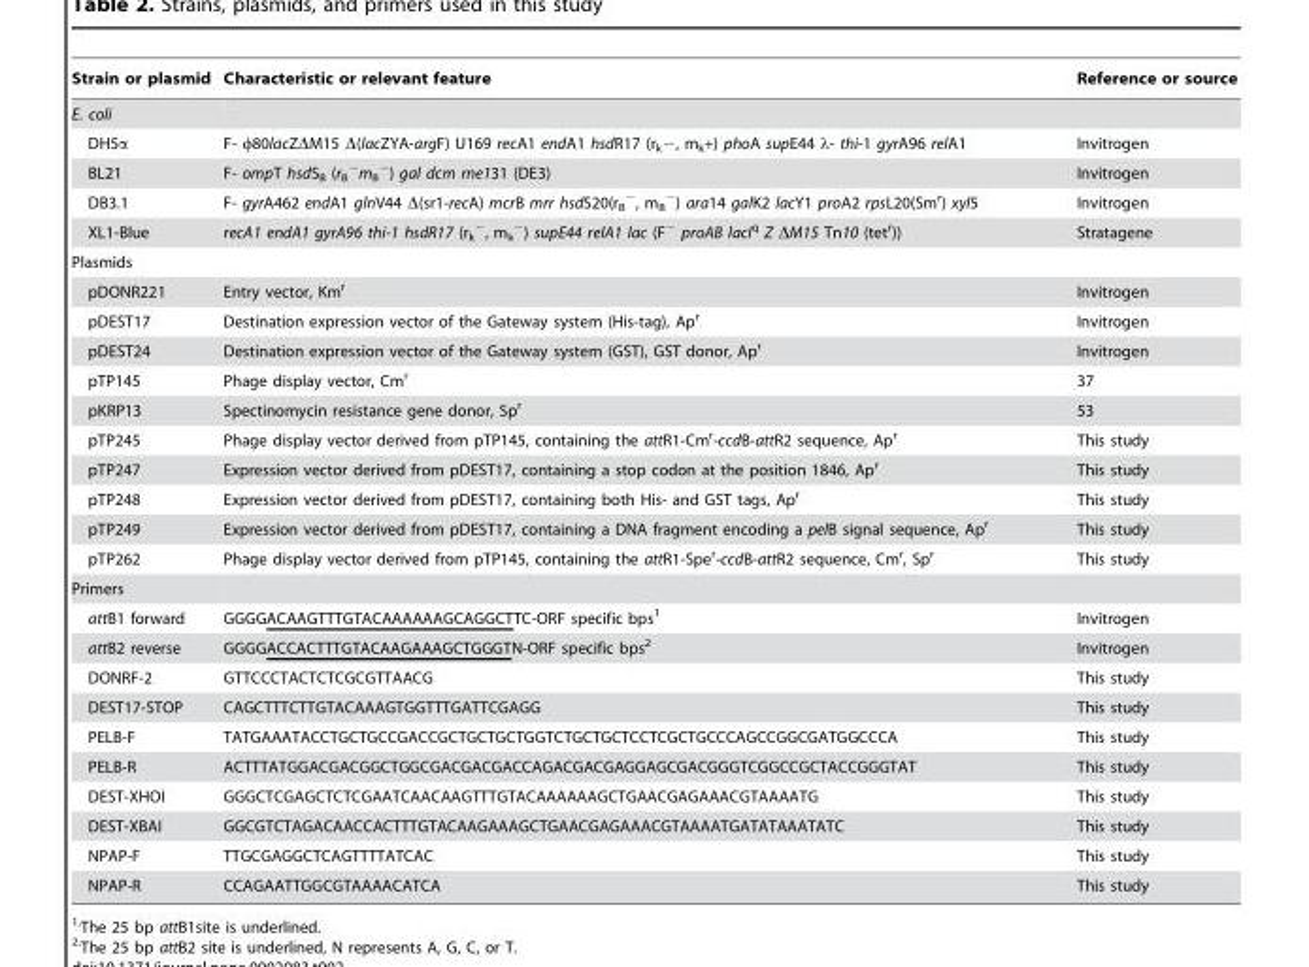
<table><thead><tr><td>Strain or plasmid</td><td>Characteristic or relevant feature</td><td>Reference or source</td></tr></thead><tbody><tr><td colspan="3">E. coli</td></tr><tr><td>DH5α</td><td>F- φ80lacZΔM15 Δ(lacZYA-argF) U169 recA1 endA1 hsdR17 (r<sub>k</sub>−, m<sub>k</sub>+) phoA supE44 λ- thi-1 gyrA96 relA1</td><td>Invitrogen</td></tr><tr><td>BL21</td><td>F- ompT hsdS<sub>B</sub> (r<sub>B</sub> <sup>−</sup>m<sub>B</sub> <sup>−</sup>) gal dcm rne131 (DE3)</td><td>Invitrogen</td></tr><tr><td>DB3.1</td><td>F- gyrA462 endA1 glnV44 Δ(sr1-recA) mcrB mrr hsdS20(r<sub>B</sub> <sup>−</sup>, m<sub>B</sub> <sup>−</sup>) ara14 galK2 lacY1 proA2 rpsL20(Sm<sup>r</sup>) xyl5</td><td>Invitrogen</td></tr><tr><td>XL1-Blue</td><td>recA1 endA1 gyrA96 thi-1 hsdR17 (r<sub>k</sub> <sup>−</sup>, m<sub>k</sub> <sup>−</sup>) supE44 relA1 lac (F<sup>−</sup> proAB lacI<sup>q</sup> Z ΔM15 Tn10 (tet<sup>r</sup>))</td><td>Stratagene</td></tr><tr><td colspan="3">Plasmids</td></tr><tr><td>pDONR221</td><td>Entry vector, Km<sup>r</sup></td><td>Invitrogen</td></tr><tr><td>pDEST17</td><td>Destination expression vector of the Gateway system (His-tag), Ap<sup>r</sup></td><td>Invitrogen</td></tr><tr><td>pDEST24</td><td>Destination expression vector of the Gateway system (GST), GST donor, Ap<sup>r</sup></td><td>Invitrogen</td></tr><tr><td>pTP145</td><td>Phage display vector, Cm<sup>r</sup></td><td>37</td></tr><tr><td>pKRP13</td><td>Spectinomycin resistance gene donor, Sp<sup>r</sup></td><td>53</td></tr><tr><td>pTP245</td><td>Phage display vector derived from pTP145, containing the attR1-Cm<sup>r</sup>-ccdB-attR2 sequence, Ap<sup>r</sup></td><td>This study</td></tr><tr><td>pTP247</td><td>Expression vector derived from pDEST17, containing a stop codon at the position 1846, Ap<sup>r</sup></td><td>This study</td></tr><tr><td>pTP248</td><td>Expression vector derived from pDEST17, containing both His- and GST tags, Ap<sup>r</sup></td><td>This study</td></tr><tr><td>pTP249</td><td>Expression vector derived from pDEST17, containing a DNA fragment encoding a pelB signal sequence, Ap<sup>r</sup></td><td>This study</td></tr><tr><td>pTP262</td><td>Phage display vector derived from pTP145, containing the attR1-Spe<sup>r</sup>-ccdB-attR2 sequence, Cm<sup>r</sup>, Sp<sup>r</sup></td><td>This study</td></tr><tr><td colspan="3">Primers</td></tr><tr><td>attB1 forward</td><td>GGGGACAAGTTTGTACAAAAAAGCAGGCTTC-ORF specific bps<sup>1</sup></td><td>Invitrogen</td></tr><tr><td>attB2 reverse</td><td>GGGGACCACTTTGTACAAGAAAGCTGGGTN-ORF specific bps<sup>2</sup></td><td>Invitrogen</td></tr><tr><td>DONRF-2</td><td>GTTCCCTACTCTCGCGTTAACG</td><td>This study</td></tr><tr><td>DEST17-STOP</td><td>CAGCTTTCTTGTACAAAGTGGTTTGATTCGAGG</td><td>This study</td></tr><tr><td>PELB-F</td><td>TATGAAATACCTGCTGCCGACCGCTGCTGCTGGTCTGCTGCTCCTCGCTGCCCAGCCGGCGATGGCCCA</td><td>This study</td></tr><tr><td>PELB-R</td><td>ACTTTATGGACGACGGCTGGCGACGACGACCAGACGACGAGGAGCGACGGGTCGGCCGCTACCGGGTAT</td><td>This study</td></tr><tr><td>DEST-XHOI</td><td>GGGCTCGAGCTCTCGAATCAACAAGTTTGTACAAAAAAGCTGAACGAGAAACGTAAAATG</td><td>This study</td></tr><tr><td>DEST-XBAI</td><td>GGCGTCTAGACAACCACTTTGTACAAGAAAGCTGAACGAGAAACGTAAAATGATATAAATATC</td><td>This study</td></tr><tr><td>NPAP-F</td><td>TTGCGAGGCTCAGTTTTATCAC</td><td>This study</td></tr><tr><td>NPAP-R</td><td>CCAGAATTGGCGTAAAACATCA</td><td>This study</td></tr></tbody></table>